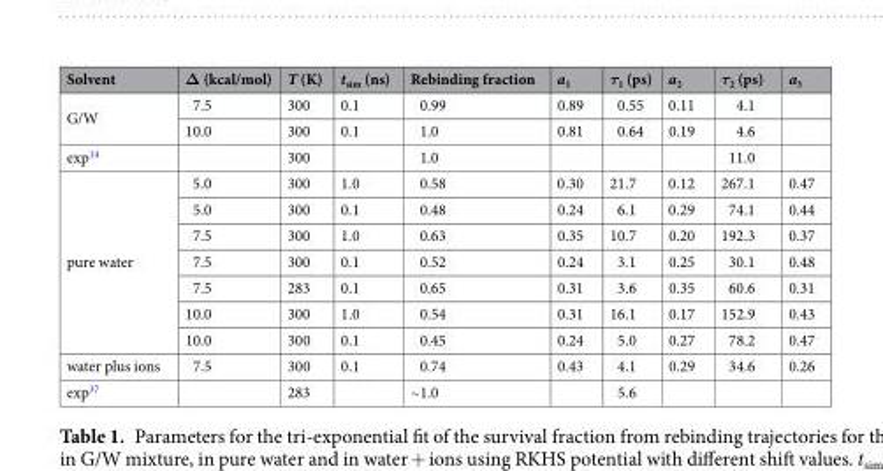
<table><thead><tr><td>Solvent</td><td>Δ (kcal/mol)</td><td>T (K)</td><td>t<sub>sim</sub> (ns)</td><td>Rebinding fraction</td><td>a<sub>1</sub></td><td>τ<sub>1</sub> (ps)</td><td>a<sub>2</sub></td><td>τ<sub>2</sub> (ps)</td><td>a<sub>3</sub></td></tr></thead><tbody><tr><td rowspan="2">G/W</td><td>7.5</td><td>300</td><td>0.1</td><td>0.99</td><td>0.89</td><td>0.55</td><td>0.11</td><td>4.1</td><td></td></tr><tr><td>10.0</td><td>300</td><td>0.1</td><td>1.0</td><td>0.81</td><td>0.64</td><td>0.19</td><td>4.6</td><td></td></tr><tr><td>exp<sup>14</sup></td><td></td><td>300</td><td></td><td>1.0</td><td></td><td></td><td></td><td>11.0</td><td></td></tr><tr><td rowspan="7">pure water</td><td>5.0</td><td>300</td><td>1.0</td><td>0.58</td><td>0.30</td><td>21.7</td><td>0.12</td><td>267.1</td><td>0.47</td></tr><tr><td>5.0</td><td>300</td><td>0.1</td><td>0.48</td><td>0.24</td><td>6.1</td><td>0.29</td><td>74.1</td><td>0.44</td></tr><tr><td>7.5</td><td>300</td><td>1.0</td><td>0.63</td><td>0.35</td><td>10.7</td><td>0.20</td><td>192.3</td><td>0.37</td></tr><tr><td>7.5</td><td>300</td><td>0.1</td><td>0.52</td><td>0.24</td><td>3.1</td><td>0.25</td><td>30.1</td><td>0.48</td></tr><tr><td>7.5</td><td>283</td><td>0.1</td><td>0.65</td><td>0.31</td><td>3.6</td><td>0.35</td><td>60.6</td><td>0.31</td></tr><tr><td>10.0</td><td>300</td><td>1.0</td><td>0.54</td><td>0.31</td><td>16.1</td><td>0.17</td><td>152.9</td><td>0.43</td></tr><tr><td>10.0</td><td>300</td><td>0.1</td><td>0.45</td><td>0.24</td><td>5.0</td><td>0.27</td><td>78.2</td><td>0.47</td></tr><tr><td>water plus ions</td><td>7.5</td><td>300</td><td>0.1</td><td>0.74</td><td>0.43</td><td>4.1</td><td>0.29</td><td>34.6</td><td>0.26</td></tr><tr><td>exp<sup>37</sup></td><td></td><td>283</td><td></td><td>~1.0</td><td></td><td>5.6</td><td></td><td></td><td></td></tr></tbody></table>